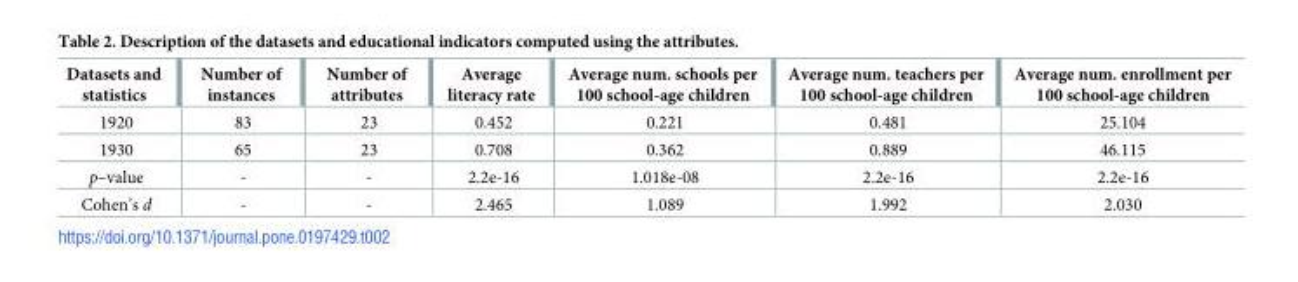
<table><thead><tr><td>Datasets and statistics</td><td>Number of instances</td><td>Number of attributes</td><td>Average literacy rate</td><td>Average num. schools per 100 school-age children</td><td>Average num. teachers per 100 school-age children</td><td>Average num. enrollment per 100 school-age children</td></tr></thead><tbody><tr><td>1920</td><td>83</td><td>23</td><td>0.452</td><td>0.221</td><td>0.481</td><td>25.104</td></tr><tr><td>1930</td><td>65</td><td>23</td><td>0.708</td><td>0.362</td><td>0.889</td><td>46.115</td></tr><tr><td>p–value</td><td>-</td><td>-</td><td>2.2e-16</td><td>1.018e-08</td><td>2.2e-16</td><td>2.2e-16</td></tr><tr><td>Cohen’s d</td><td>-</td><td>-</td><td>2.465</td><td>1.089</td><td>1.992</td><td>2.030</td></tr></tbody></table>